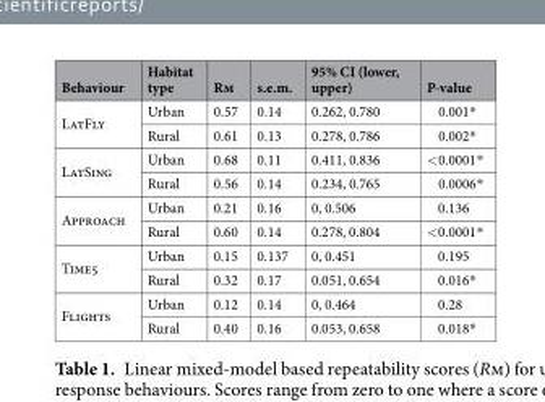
<table><thead><tr><td>Behaviour</td><td>Habitat type</td><td>Rm</td><td>s.e.m.</td><td>95% CI (lower, upper)</td><td>P-value</td></tr></thead><tbody><tr><td rowspan="2">LatFly</td><td>Urban</td><td>0.57</td><td>0.14</td><td>0.262, 0.780</td><td>0.001*</td></tr><tr><td>Rural</td><td>0.61</td><td>0.13</td><td>0.278, 0.786</td><td>0.002*</td></tr><tr><td rowspan="2">LatSing</td><td>Urban</td><td>0.68</td><td>0.11</td><td>0.411, 0.836</td><td>&lt;0.0001*</td></tr><tr><td>Rural</td><td>0.56</td><td>0.14</td><td>0.234, 0.765</td><td>0.0006*</td></tr><tr><td rowspan="2">Approach</td><td>Urban</td><td>0.21</td><td>0.16</td><td>0, 0.506</td><td>0.136</td></tr><tr><td>Rural</td><td>0.60</td><td>0.14</td><td>0.278, 0.804</td><td>&lt;0.0001*</td></tr><tr><td rowspan="2">Time5</td><td>Urban</td><td>0.15</td><td>0.137</td><td>0, 0.451</td><td>0.195</td></tr><tr><td>Rural</td><td>0.32</td><td>0.17</td><td>0.051, 0.654</td><td>0.016*</td></tr><tr><td rowspan="2">Flights</td><td>Urban</td><td>0.12</td><td>0.14</td><td>0, 0.464</td><td>0.28</td></tr><tr><td>Rural</td><td>0.40</td><td>0.16</td><td>0.053, 0.658</td><td>0.018*</td></tr></tbody></table>